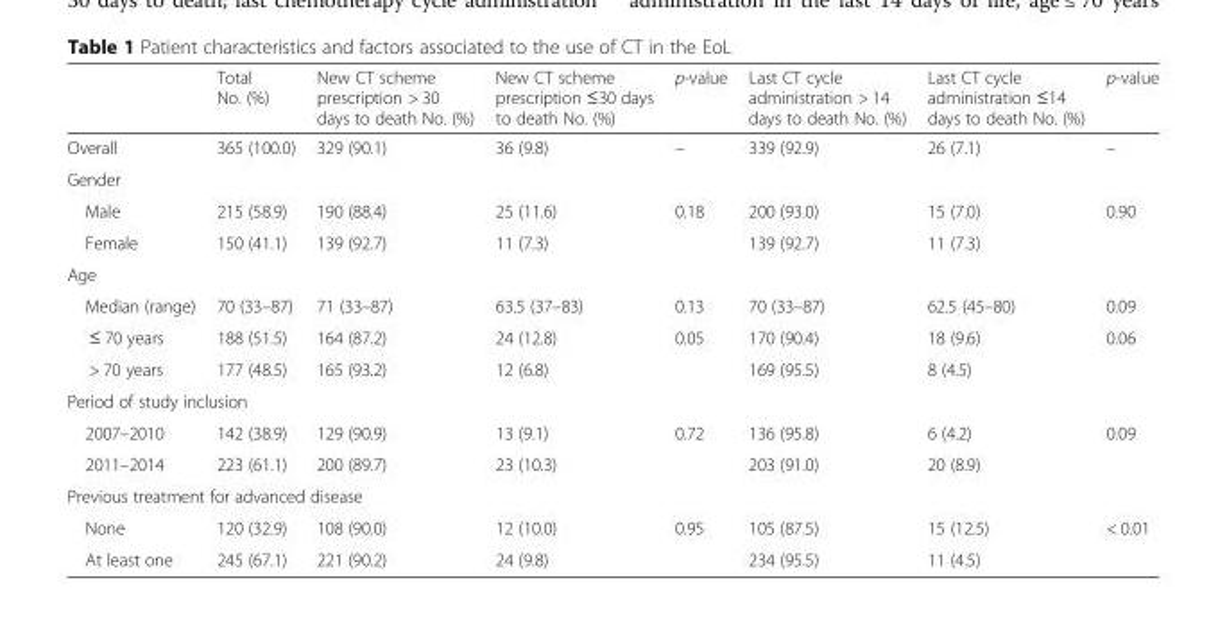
<table><thead><tr><td></td><td>Total No. (%)</td><td>New CT scheme prescription &gt; 30 days to death No. (%)</td><td>New CT scheme prescription ≤30 days to death No. (%)</td><td>p-value</td><td>Last CT cycle administration &gt; 14 days to death No. (%)</td><td>Last CT cycle administration ≤14 days to death No. (%)</td><td>p-value</td></tr></thead><tbody><tr><td>Overall</td><td>365 (100.0)</td><td>329 (90.1)</td><td>36 (9.8)</td><td>–</td><td>339 (92.9)</td><td>26 (7.1)</td><td>–</td></tr><tr><td colspan="8">Gender</td></tr><tr><td>Male</td><td>215 (58.9)</td><td>190 (88.4)</td><td>25 (11.6)</td><td rowspan="2">0.18</td><td>200 (93.0)</td><td>15 (7.0)</td><td rowspan="2">0.90</td></tr><tr><td>Female</td><td>150 (41.1)</td><td>139 (92.7)</td><td>11 (7.3)</td><td>139 (92.7)</td><td>11 (7.3)</td></tr><tr><td colspan="8">Age</td></tr><tr><td>Median (range)</td><td>70 (33–87)</td><td>71 (33–87)</td><td>63.5 (37–83)</td><td>0.13</td><td>70 (33–87)</td><td>62.5 (45–80)</td><td>0.09</td></tr><tr><td>≤ 70 years</td><td>188 (51.5)</td><td>164 (87.2)</td><td>24 (12.8)</td><td rowspan="2">0.05</td><td>170 (90.4)</td><td>18 (9.6)</td><td rowspan="2">0.06</td></tr><tr><td>&gt; 70 years</td><td>177 (48.5)</td><td>165 (93.2)</td><td>12 (6.8)</td><td>169 (95.5)</td><td>8 (4.5)</td></tr><tr><td colspan="8">Period of study inclusion</td></tr><tr><td>2007–2010</td><td>142 (38.9)</td><td>129 (90.9)</td><td>13 (9.1)</td><td rowspan="2">0.72</td><td>136 (95.8)</td><td>6 (4.2)</td><td rowspan="2">0.09</td></tr><tr><td>2011–2014</td><td>223 (61.1)</td><td>200 (89.7)</td><td>23 (10.3)</td><td>203 (91.0)</td><td>20 (8.9)</td></tr><tr><td colspan="8">Previous treatment for advanced disease</td></tr><tr><td>None</td><td>120 (32.9)</td><td>108 (90.0)</td><td>12 (10.0)</td><td>0.95</td><td>105 (87.5)</td><td>15 (12.5)</td><td>&lt; 0.01</td></tr><tr><td>At least one</td><td>245 (67.1)</td><td>221 (90.2)</td><td>24 (9.8)</td><td></td><td>234 (95.5)</td><td>11 (4.5)</td><td></td></tr></tbody></table>